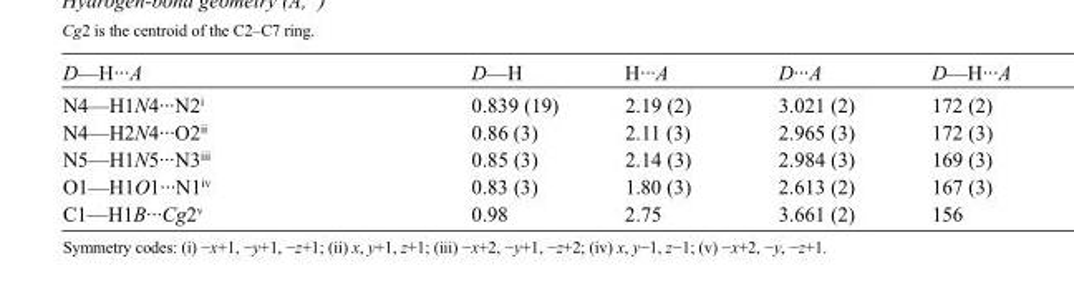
<table><tbody><tr><td>D—H···A</td><td>D—H</td><td>H···A</td><td>D···A</td><td>D—H···A</td></tr><tr><td>N4—H1N4···N2<sup>i</sup></td><td>0.839 (19)</td><td>2.19 (2)</td><td>3.021 (2)</td><td>172 (2)</td></tr><tr><td>N4—H2N4···O2<sup>ii</sup></td><td>0.86 (3)</td><td>2.11 (3)</td><td>2.965 (3)</td><td>172 (3)</td></tr><tr><td>N5—H1N5···N3<sup>iii</sup></td><td>0.85 (3)</td><td>2.14 (3)</td><td>2.984 (3)</td><td>169 (3)</td></tr><tr><td>O1—H1O1···N1<sup>iv</sup></td><td>0.83 (3)</td><td>1.80 (3)</td><td>2.613 (2)</td><td>167 (3)</td></tr><tr><td>C1—H1B···Cg2<sup>v</sup></td><td>0.98</td><td>2.75</td><td>3.661 (2)</td><td>156</td></tr></tbody></table>